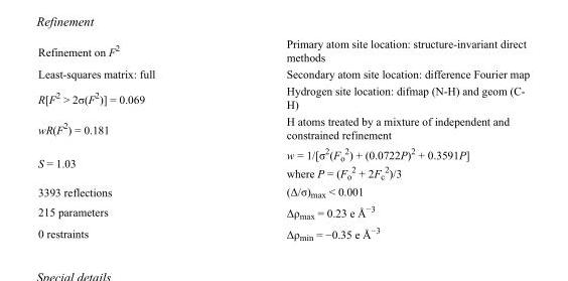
<table><tbody><tr><td>Refinement on F<sup>2</sup></td><td>Primary atom site location: structure-invariant direct methods</td></tr><tr><td>Least-squares matrix: full</td><td>Secondary atom site location: difference Fourier map</td></tr><tr><td>R[F<sup>2</sup> &gt; 2σ(F<sup>2</sup>)] = 0.069</td><td>Hydrogen site location: difmap (N-H) and geom (C- H)</td></tr><tr><td>wR(F<sup>2</sup>) = 0.181</td><td>H atoms treated by a mixture of independent and constrained refinement</td></tr><tr><td>S = 1.03</td><td>w = 1/[σ<sup>2</sup>(F<sub>o</sub> <sup>2</sup>) + (0.0722P)<sup>2</sup> + 0.3591P] where P = (F<sub>o</sub> <sup>2</sup> + 2F<sub>c</sub> <sup>2</sup>)/3</td></tr><tr><td>3393 reflections</td><td>(Δ/σ)<sub>max</sub> &lt; 0.001</td></tr><tr><td>215 parameters</td><td>Δρ<sub>max</sub> = 0.23 e Å<sup>−3</sup></td></tr><tr><td>0 restraints</td><td>Δρ<sub>min</sub> = −0.35 e Å<sup>−3</sup></td></tr></tbody></table>